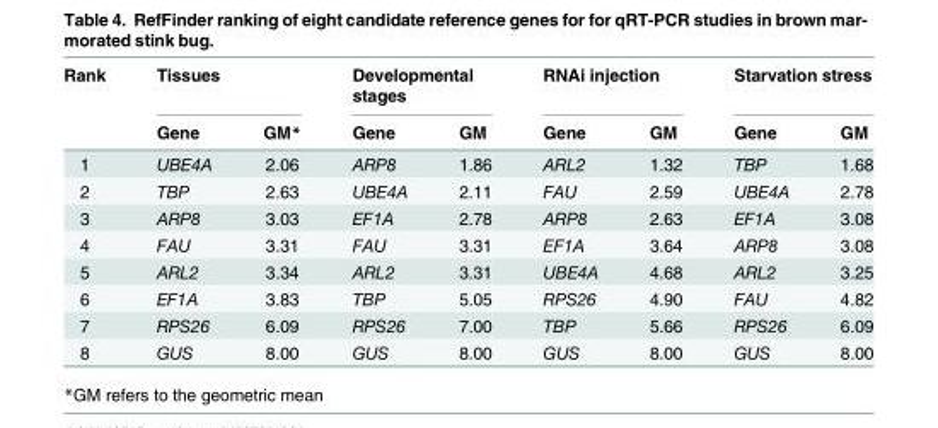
<table><thead><tr><td rowspan="2">Rank</td><td colspan="2">Tissues</td><td colspan="2">Developmental stages</td><td colspan="2">RNAi injection</td><td colspan="2">Starvation stress</td></tr><tr><td>Gene</td><td>GM*</td><td>Gene</td><td>GM</td><td>Gene</td><td>GM</td><td>Gene</td><td>GM</td></tr></thead><tbody><tr><td>1</td><td>UBE4A</td><td>2.06</td><td>ARP8</td><td>1.86</td><td>ARL2</td><td>1.32</td><td>TBP</td><td>1.68</td></tr><tr><td>2</td><td>TBP</td><td>2.63</td><td>UBE4A</td><td>2.11</td><td>FAU</td><td>2.59</td><td>UBE4A</td><td>2.78</td></tr><tr><td>3</td><td>ARP8</td><td>3.03</td><td>EF1A</td><td>2.78</td><td>ARP8</td><td>2.63</td><td>EF1A</td><td>3.08</td></tr><tr><td>4</td><td>FAU</td><td>3.31</td><td>FAU</td><td>3.31</td><td>EF1A</td><td>3.64</td><td>ARP8</td><td>3.08</td></tr><tr><td>5</td><td>ARL2</td><td>3.34</td><td>ARL2</td><td>3.31</td><td>UBE4A</td><td>4.68</td><td>ARL2</td><td>3.25</td></tr><tr><td>6</td><td>EF1A</td><td>3.83</td><td>TBP</td><td>5.05</td><td>RPS26</td><td>4.90</td><td>FAU</td><td>4.82</td></tr><tr><td>7</td><td>RPS26</td><td>6.09</td><td>RPS26</td><td>7.00</td><td>TBP</td><td>5.66</td><td>RPS26</td><td>6.09</td></tr><tr><td>8</td><td>GUS</td><td>8.00</td><td>GUS</td><td>8.00</td><td>GUS</td><td>8.00</td><td>GUS</td><td>8.00</td></tr></tbody></table>